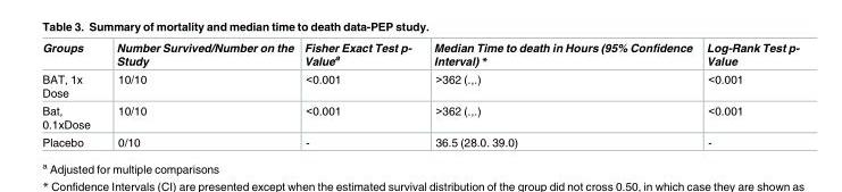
<table><thead><tr><td>Groups</td><td>Number Survived/Number on the Study</td><td>Fisher Exact Test p- Value<sup>a</sup></td><td>Median Time to death in Hours (95% Confidence Interval) *</td><td>Log-Rank Test p- Value</td></tr></thead><tbody><tr><td>BAT, 1x Dose</td><td>10/10</td><td>&lt;0.001</td><td>&gt;362 (.,.)</td><td>&lt;0.001</td></tr><tr><td>Bat, 0.1xDose</td><td>10/10</td><td>&lt;0.001</td><td>&gt;362 (.,.)</td><td>&lt;0.001</td></tr><tr><td>Placebo</td><td>0/10</td><td>-</td><td>36.5 (28.0. 39.0)</td><td>-</td></tr></tbody></table>